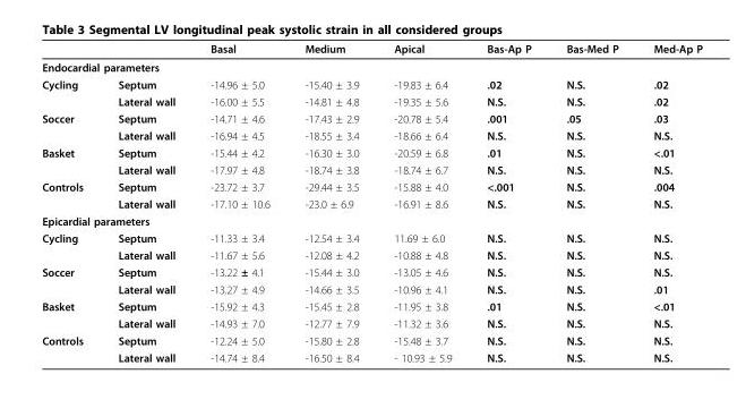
<table><thead><tr><td></td><td></td><td>Basal</td><td>Medium</td><td>Apical</td><td>Bas-Ap P</td><td>Bas-Med P</td><td>Med-Ap P</td></tr></thead><tbody><tr><td colspan="8">Endocardial parameters</td></tr><tr><td rowspan="2">Cycling</td><td>Septum</td><td>-14.96 ± 5.0</td><td>-15.40 ± 3.9</td><td>-19.83 ± 6.4</td><td>.02</td><td>N.S.</td><td>.02</td></tr><tr><td>Lateral wall</td><td>-16.00 ± 5.5</td><td>-14.81 ± 4.8</td><td>-19.35 ± 5.6</td><td>N.S.</td><td>N.S.</td><td>.02</td></tr><tr><td rowspan="2">Soccer</td><td>Septum</td><td>-14.71 ± 4.6</td><td>-17.43 ± 2.9</td><td>-20.78 ± 5.4</td><td>.001</td><td>.05</td><td>.03</td></tr><tr><td>Lateral wall</td><td>-16.94 ± 4.5</td><td>-18.55 ± 3.4</td><td>-18.66 ± 6.4</td><td>N.S.</td><td>N.S.</td><td>N.S.</td></tr><tr><td rowspan="2">Basket</td><td>Septum</td><td>-15.44 ± 4.2</td><td>-16.30 ± 3.0</td><td>-20.59 ± 6.8</td><td>.01</td><td>N.S.</td><td>&lt;.01</td></tr><tr><td>Lateral wall</td><td>-17.97 ± 4.8</td><td>-18.74 ± 3.8</td><td>-18.74 ± 6.7</td><td>N.S.</td><td>N.S.</td><td>N.S.</td></tr><tr><td rowspan="2">Controls</td><td>Septum</td><td>-23.72 ± 3.7</td><td>-29.44 ± 3.5</td><td>-15.88 ± 4.0</td><td>&lt;.001</td><td>N.S.</td><td>.004</td></tr><tr><td>Lateral wall</td><td>-17.10 ± 10.6</td><td>-23.0 ± 6.9</td><td>-16.91 ± 8.6</td><td>N.S.</td><td>N.S.</td><td>N.S.</td></tr><tr><td colspan="8">Epicardial parameters</td></tr><tr><td rowspan="2">Cycling</td><td>Septum</td><td>-11.33 ± 3.4</td><td>-12.54 ± 3.4</td><td>11.69 ± 6.0</td><td>N.S.</td><td>N.S.</td><td>N.S.</td></tr><tr><td>Lateral wall</td><td>-11.67 ± 5.6</td><td>-12.08 ± 4.2</td><td>-10.88 ± 4.8</td><td>N.S.</td><td>N.S.</td><td>N.S.</td></tr><tr><td rowspan="2">Soccer</td><td>Septum</td><td>-13.22 ± 4.1</td><td>-15.44 ± 3.0</td><td>-13.05 ± 4.6</td><td>N.S.</td><td>N.S.</td><td>N.S.</td></tr><tr><td>Lateral wall</td><td>-13.27 ± 4.9</td><td>-14.66 ± 3.5</td><td>-10.96 ± 4.1</td><td>N.S.</td><td>N.S.</td><td>.01</td></tr><tr><td rowspan="2">Basket</td><td>Septum</td><td>-15.92 ± 4.3</td><td>-15.45 ± 2.8</td><td>-11.95 ± 3.8</td><td>.01</td><td>N.S.</td><td>&lt;.01</td></tr><tr><td>Lateral wall</td><td>-14.93 ± 7.0</td><td>-12.77 ± 7.9</td><td>-11.32 ± 3.6</td><td>N.S.</td><td>N.S.</td><td>N.S.</td></tr><tr><td rowspan="2">Controls</td><td>Septum</td><td>-12.24 ± 5.0</td><td>-15.80 ± 2.8</td><td>-15.48 ± 3.7</td><td>N.S.</td><td>N.S.</td><td>N.S.</td></tr><tr><td>Lateral wall</td><td>-14.74 ± 8.4</td><td>-16.50 ± 8.4</td><td>- 10.93 ± 5.9</td><td>N.S.</td><td>N.S.</td><td>N.S.</td></tr></tbody></table>